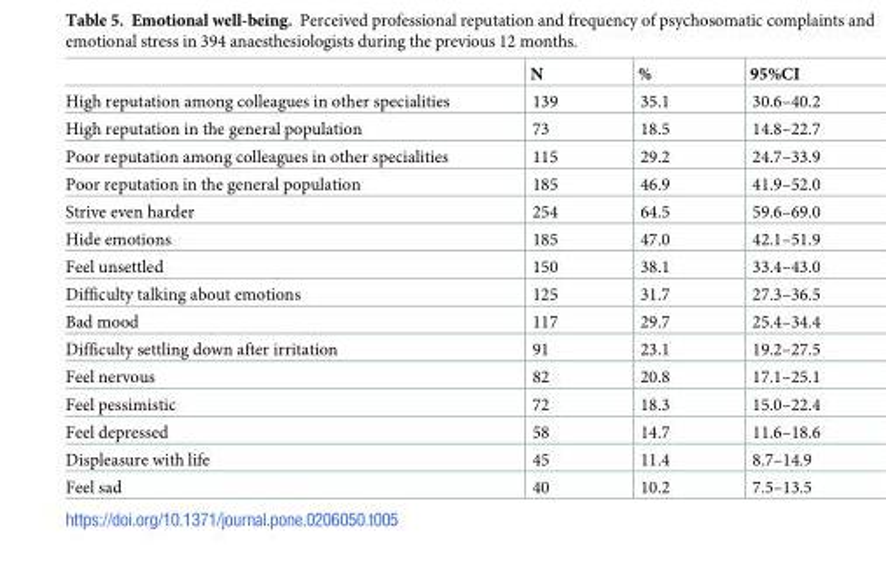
<table><thead><tr><td></td><td>N</td><td>%</td><td>95%CI</td></tr></thead><tbody><tr><td>High reputation among colleagues in other specialities</td><td>139</td><td>35.1</td><td>30.6–40.2</td></tr><tr><td>High reputation in the general population</td><td>73</td><td>18.5</td><td>14.8–22.7</td></tr><tr><td>Poor reputation among colleagues in other specialities</td><td>115</td><td>29.2</td><td>24.7–33.9</td></tr><tr><td>Poor reputation in the general population</td><td>185</td><td>46.9</td><td>41.9–52.0</td></tr><tr><td>Strive even harder</td><td>254</td><td>64.5</td><td>59.6–69.0</td></tr><tr><td>Hide emotions</td><td>185</td><td>47.0</td><td>42.1–51.9</td></tr><tr><td>Feel unsettled</td><td>150</td><td>38.1</td><td>33.4–43.0</td></tr><tr><td>Difficulty talking about emotions</td><td>125</td><td>31.7</td><td>27.3–36.5</td></tr><tr><td>Bad mood</td><td>117</td><td>29.7</td><td>25.4–34.4</td></tr><tr><td>Difficulty settling down after irritation</td><td>91</td><td>23.1</td><td>19.2–27.5</td></tr><tr><td>Feel nervous</td><td>82</td><td>20.8</td><td>17.1–25.1</td></tr><tr><td>Feel pessimistic</td><td>72</td><td>18.3</td><td>15.0–22.4</td></tr><tr><td>Feel depressed</td><td>58</td><td>14.7</td><td>11.6–18.6</td></tr><tr><td>Displeasure with life</td><td>45</td><td>11.4</td><td>8.7–14.9</td></tr><tr><td>Feel sad</td><td>40</td><td>10.2</td><td>7.5–13.5</td></tr></tbody></table>